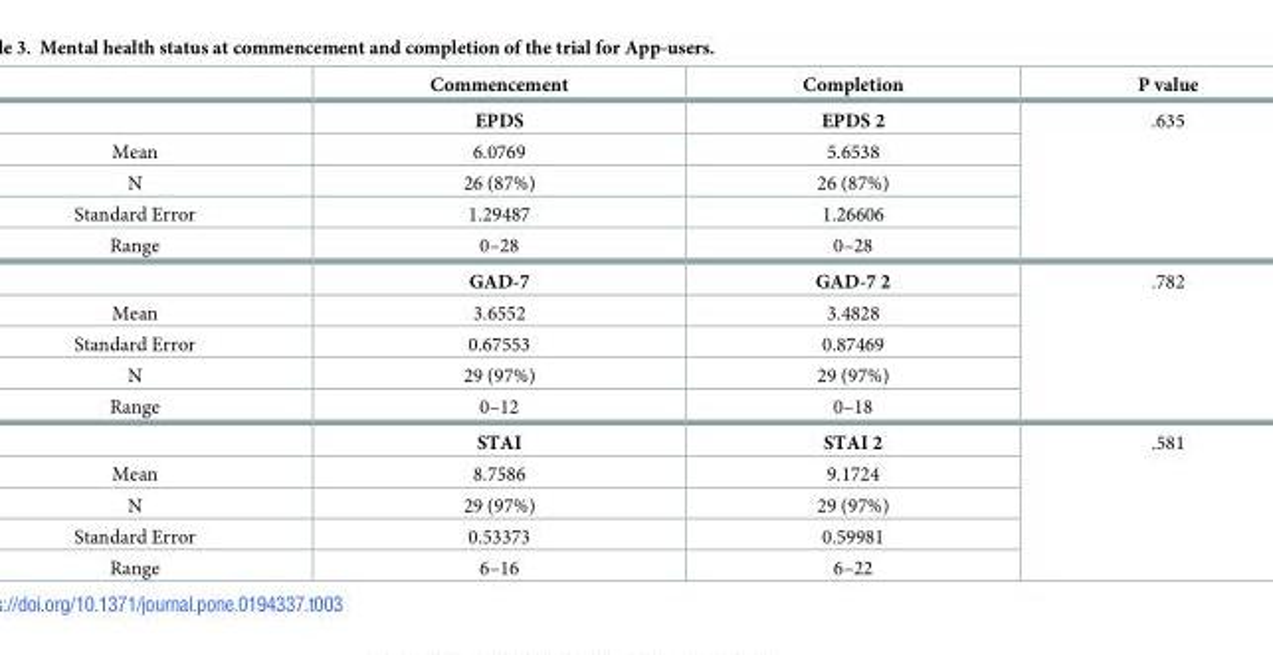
<table><thead><tr><td></td><td>Commencement</td><td>Completion</td><td>P value</td></tr></thead><tbody><tr><td></td><td>EPDS</td><td>EPDS 2</td><td rowspan="5">.635</td></tr><tr><td>Mean</td><td>6.0769</td><td>5.6538</td></tr><tr><td>N</td><td>26 (87%)</td><td>26 (87%)</td></tr><tr><td>Standard Error</td><td>1.29487</td><td>1.26606</td></tr><tr><td rowspan="2">Range</td><td>0–28</td><td>0–28</td></tr><tr><td>GAD-7</td><td>GAD-7 2</td><td rowspan="5">.782</td></tr><tr><td>Mean</td><td>3.6552</td><td>3.4828</td></tr><tr><td>Standard Error</td><td>0.67553</td><td>0.87469</td></tr><tr><td>N</td><td>29 (97%)</td><td>29 (97%)</td></tr><tr><td rowspan="2">Range</td><td>0–12</td><td>0–18</td></tr><tr><td>STAI</td><td>STAI 2</td><td rowspan="5">.581</td></tr><tr><td>Mean</td><td>8.7586</td><td>9.1724</td></tr><tr><td>N</td><td>29 (97%)</td><td>29 (97%)</td></tr><tr><td>Standard Error</td><td>0.53373</td><td>0.59981</td></tr><tr><td>Range</td><td>6–16</td><td>6–22</td></tr></tbody></table>